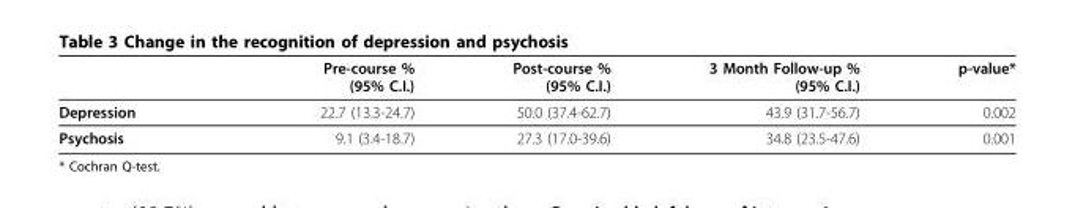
<table><thead><tr><td></td><td>Pre-course % (95% C.I.)</td><td>Post-course % (95% C.I.)</td><td>3 Month Follow-up % (95% C.I.)</td><td>p-value*</td></tr></thead><tbody><tr><td>Depression</td><td>22.7 (13.3-24.7)</td><td>50.0 (37.4-62.7)</td><td>43.9 (31.7-56.7)</td><td>0.002</td></tr><tr><td>Psychosis</td><td>9.1 (3.4-18.7)</td><td>27.3 (17.0-39.6)</td><td>34.8 (23.5-47.6)</td><td>0.001</td></tr></tbody></table>